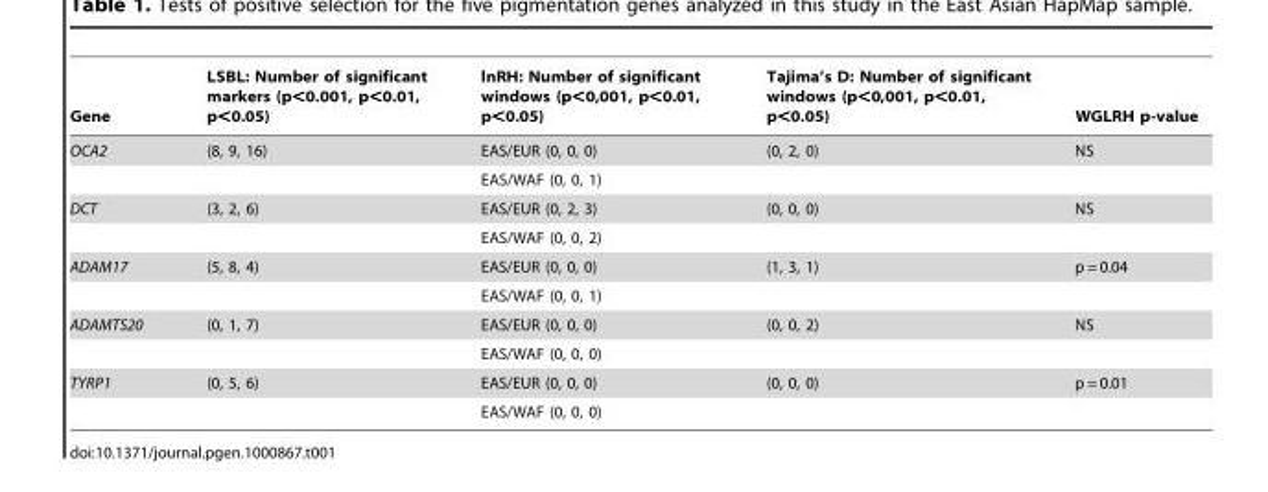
<table><thead><tr><td>Gene</td><td>LSBL: Number of significant markers (p&lt;0.001, p&lt;0.01, p&lt;0.05)</td><td>lnRH: Number of significant windows (p&lt;0,001, p&lt;0.01, p&lt;0.05)</td><td>Tajima’s D: Number of significant windows (p&lt;0,001, p&lt;0.01, p&lt;0.05)</td><td>WGLRH p-value</td></tr></thead><tbody><tr><td rowspan="2">OCA2</td><td>(8, 9, 16)</td><td>EAS/EUR (0, 0, 0)</td><td>(0, 2, 0)</td><td>NS</td></tr><tr><td></td><td>EAS/WAF (0, 0, 1)</td><td></td><td></td></tr><tr><td rowspan="2">DCT</td><td>(3, 2, 6)</td><td>EAS/EUR (0, 2, 3)</td><td>(0, 0, 0)</td><td>NS</td></tr><tr><td></td><td>EAS/WAF (0, 0, 2)</td><td></td><td></td></tr><tr><td rowspan="2">ADAM17</td><td>(5, 8, 4)</td><td>EAS/EUR (0, 0, 0)</td><td>(1, 3, 1)</td><td>p = 0.04</td></tr><tr><td></td><td>EAS/WAF (0, 0, 1)</td><td></td><td></td></tr><tr><td rowspan="2">ADAMTS20</td><td>(0, 1, 7)</td><td>EAS/EUR (0, 0, 0)</td><td>(0, 0, 2)</td><td>NS</td></tr><tr><td></td><td>EAS/WAF (0, 0, 0)</td><td></td><td></td></tr><tr><td rowspan="2">TYRP1</td><td>(0, 5, 6)</td><td>EAS/EUR (0, 0, 0)</td><td>(0, 0, 0)</td><td>p = 0.01</td></tr><tr><td></td><td>EAS/WAF (0, 0, 0)</td><td></td><td></td></tr></tbody></table>